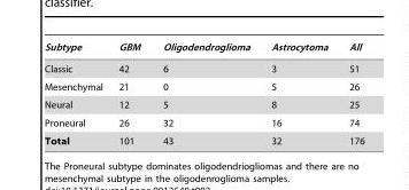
<table><thead><tr><td>Subtype</td><td>GBM</td><td>Oligodendroglioma</td><td>Astrocytoma</td><td>All</td></tr></thead><tbody><tr><td>Classic</td><td>42</td><td>6</td><td>3</td><td>51</td></tr><tr><td>Mesenchymal</td><td>21</td><td>0</td><td>5</td><td>26</td></tr><tr><td>Neural</td><td>12</td><td>5</td><td>8</td><td>25</td></tr><tr><td>Proneural</td><td>26</td><td>32</td><td>16</td><td>74</td></tr><tr><td>Total</td><td>101</td><td>43</td><td>32</td><td>176</td></tr></tbody></table>